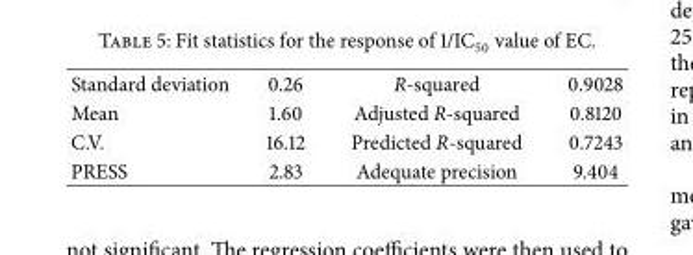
<table><tbody><tr><td>Standard deviation</td><td>0.26</td><td>R-squared</td><td>0.9028</td></tr><tr><td>Mean</td><td>1.60</td><td>Adjusted R-squared</td><td>0.8120</td></tr><tr><td>C.V.</td><td>16.12</td><td>Predicted R-squared</td><td>0.7243</td></tr><tr><td>PRESS</td><td>2.83</td><td>Adequate precision</td><td>9.404</td></tr></tbody></table>